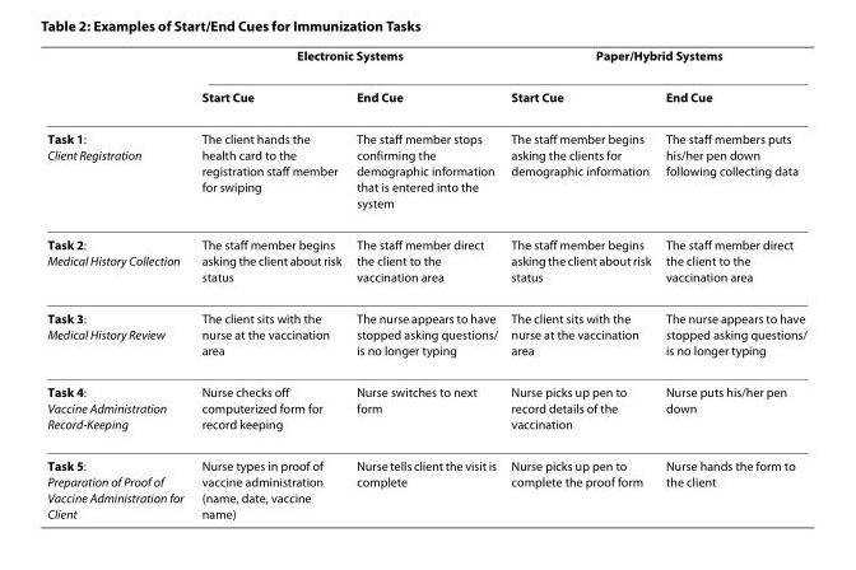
<table><thead><tr><td rowspan="2"></td><td colspan="2">Electronic Systems</td><td colspan="2">Paper/Hybrid Systems</td></tr><tr><td>Start Cue</td><td>End Cue</td><td>Start Cue</td><td>End Cue</td></tr></thead><tbody><tr><td>Task 1: Client Registration</td><td>The client hands the health card to the registration staff member for swiping</td><td>The staff member stops confirming the demographic information that is entered into the system</td><td>The staff member begins asking the clients for demographic information</td><td>The staff members puts his/her pen down following collecting data</td></tr><tr><td>Task 2: Medical History Collection</td><td>The staff member begins asking the client about risk status</td><td>The staff member direct the client to the vaccination area</td><td>The staff member begins asking the client about risk status</td><td>The staff member direct the client to the vaccination area</td></tr><tr><td>Task 3: Medical History Review</td><td>The client sits with the nurse at the vaccination area</td><td>The nurse appears to have stopped asking questions/ is no longer typing</td><td>The client sits with the nurse at the vaccination area</td><td>The nurse appears to have stopped asking questions/ is no longer typing</td></tr><tr><td>Task 4: Vaccine Administration Record-Keeping</td><td>Nurse checks off computerized form for record keeping</td><td>Nurse switches to next form</td><td>Nurse picks up pen to record details of the vaccination</td><td>Nurse puts his/her pen down</td></tr><tr><td>Task 5: Preparation of Proof of Vaccine Administration for Client</td><td>Nurse types in proof of vaccine administration (name, date, vaccine name)</td><td>Nurse tells client the visit is complete</td><td>Nurse picks up pen to complete the proof form</td><td>Nurse hands the form to the client</td></tr></tbody></table>